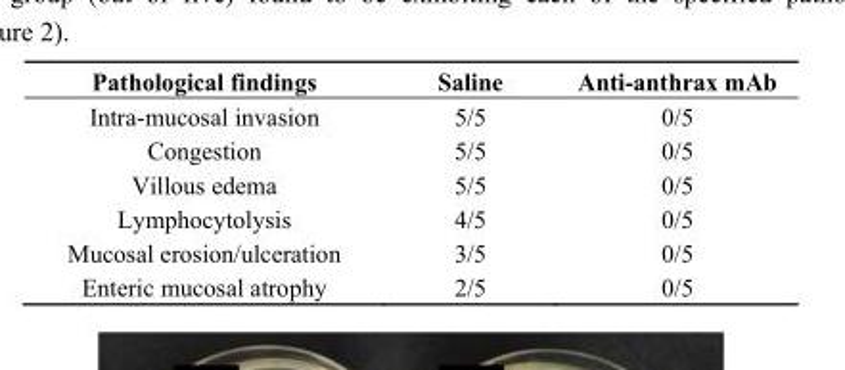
<table><thead><tr><td>Pathological findings</td><td>Saline</td><td>Anti-anthrax mAb</td></tr></thead><tbody><tr><td>Intra-mucosal invasion</td><td>5/5</td><td>0/5</td></tr><tr><td>Congestion</td><td>5/5</td><td>0/5</td></tr><tr><td>Villous edema</td><td>5/5</td><td>0/5</td></tr><tr><td>Lymphocytolysis</td><td>4/5</td><td>0/5</td></tr><tr><td>Mucosal erosion/ulceration</td><td>3/5</td><td>0/5</td></tr><tr><td>Enteric mucosal atrophy</td><td>2/5</td><td>0/5</td></tr></tbody></table>